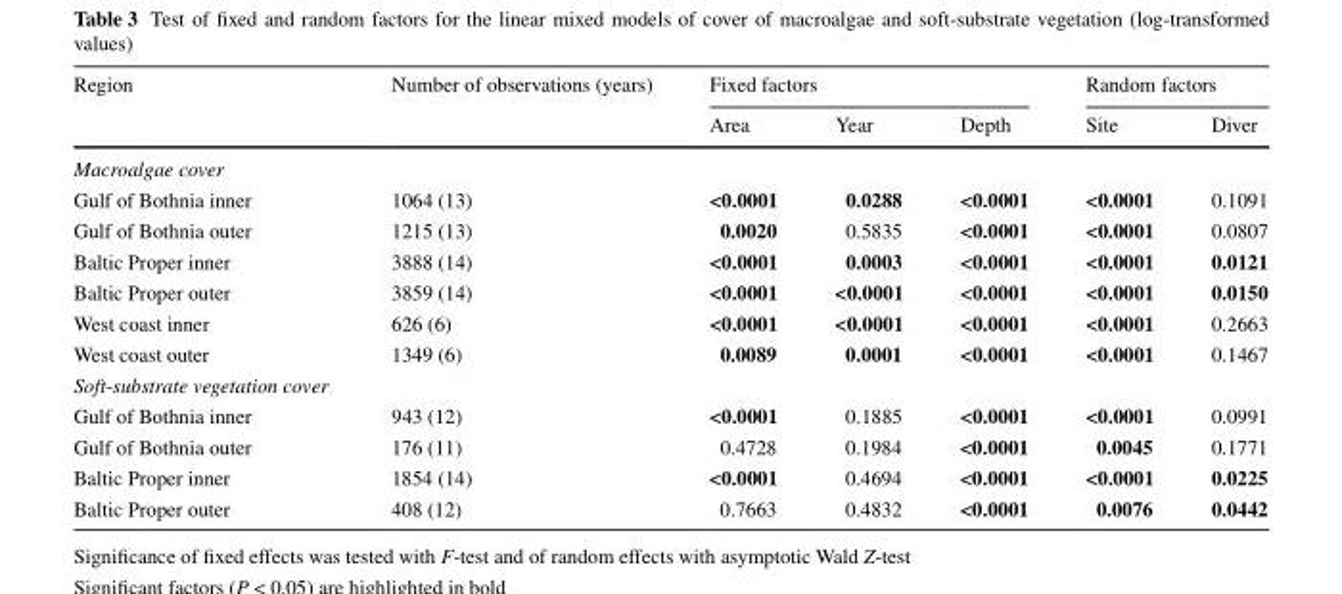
<table><thead><tr><td rowspan="2">Region</td><td rowspan="2">Number of observations (years)</td><td colspan="3">Fixed factors</td><td colspan="2">Random factors</td></tr><tr><td>Area</td><td>Year</td><td>Depth</td><td>Site</td><td>Diver</td></tr></thead><tbody><tr><td colspan="7">Macroalgae cover</td></tr><tr><td>Gulf of Bothnia inner</td><td>1064 (13)</td><td>&lt;0.0001</td><td>0.0288</td><td>&lt;0.0001</td><td>&lt;0.0001</td><td>0.1091</td></tr><tr><td>Gulf of Bothnia outer</td><td>1215 (13)</td><td>0.0020</td><td>0.5835</td><td>&lt;0.0001</td><td>&lt;0.0001</td><td>0.0807</td></tr><tr><td>Baltic Proper inner</td><td>3888 (14)</td><td>&lt;0.0001</td><td>0.0003</td><td>&lt;0.0001</td><td>&lt;0.0001</td><td>0.0121</td></tr><tr><td>Baltic Proper outer</td><td>3859 (14)</td><td>&lt;0.0001</td><td>&lt;0.0001</td><td>&lt;0.0001</td><td>&lt;0.0001</td><td>0.0150</td></tr><tr><td>West coast inner</td><td>626 (6)</td><td>&lt;0.0001</td><td>&lt;0.0001</td><td>&lt;0.0001</td><td>&lt;0.0001</td><td>0.2663</td></tr><tr><td>West coast outer</td><td>1349 (6)</td><td>0.0089</td><td>0.0001</td><td>&lt;0.0001</td><td>&lt;0.0001</td><td>0.1467</td></tr><tr><td colspan="7">Soft-substrate vegetation cover</td></tr><tr><td>Gulf of Bothnia inner</td><td>943 (12)</td><td>&lt;0.0001</td><td>0.1885</td><td>&lt;0.0001</td><td>&lt;0.0001</td><td>0.0991</td></tr><tr><td>Gulf of Bothnia outer</td><td>176 (11)</td><td>0.4728</td><td>0.1984</td><td>&lt;0.0001</td><td>0.0045</td><td>0.1771</td></tr><tr><td>Baltic Proper inner</td><td>1854 (14)</td><td>&lt;0.0001</td><td>0.4694</td><td>&lt;0.0001</td><td>&lt;0.0001</td><td>0.0225</td></tr><tr><td>Baltic Proper outer</td><td>408 (12)</td><td>0.7663</td><td>0.4832</td><td>&lt;0.0001</td><td>0.0076</td><td>0.0442</td></tr></tbody></table>